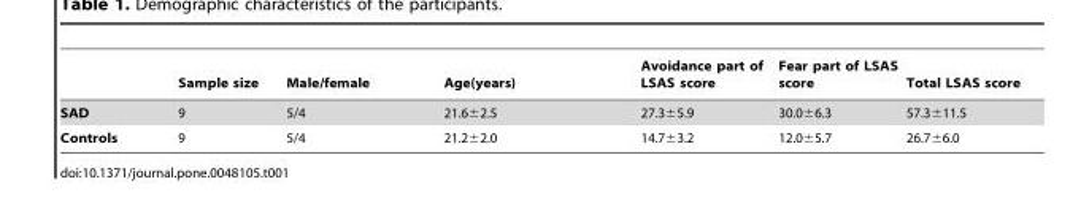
<table><thead><tr><td></td><td>Sample size</td><td>Male/female</td><td>Age(years)</td><td>Avoidance part of LSAS score</td><td>Fear part of LSAS score</td><td>Total LSAS score</td></tr></thead><tbody><tr><td>SAD</td><td>9</td><td>5/4</td><td>21.6±2.5</td><td>27.3±5.9</td><td>30.0±6.3</td><td>57.3±11.5</td></tr><tr><td>Controls</td><td>9</td><td>5/4</td><td>21.2±2.0</td><td>14.7±3.2</td><td>12.0±5.7</td><td>26.7±6.0</td></tr></tbody></table>